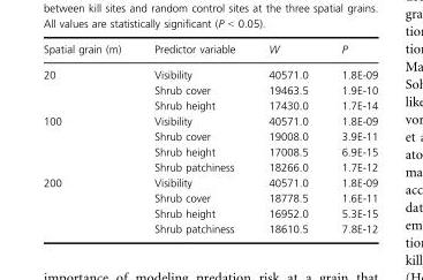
<table><thead><tr><td>Spatial grain (m)</td><td>Predictor variable</td><td>W</td><td>P</td></tr></thead><tbody><tr><td rowspan="3">20</td><td>Visibility</td><td>40571.0</td><td>1.8E-09</td></tr><tr><td>Shrub cover</td><td>19463.5</td><td>1.9E-10</td></tr><tr><td>Shrub height</td><td>17430.0</td><td>1.7E-14</td></tr><tr><td rowspan="4">100</td><td>Visibility</td><td>40571.0</td><td>1.8E-09</td></tr><tr><td>Shrub cover</td><td>19008.0</td><td>3.9E-11</td></tr><tr><td>Shrub height</td><td>17008.5</td><td>6.9E-15</td></tr><tr><td>Shrub patchiness</td><td>18266.0</td><td>1.7E-12</td></tr><tr><td rowspan="4">200</td><td>Visibility</td><td>40571.0</td><td>1.8E-09</td></tr><tr><td>Shrub cover</td><td>18778.5</td><td>1.6E-11</td></tr><tr><td>Shrub height</td><td>16952.0</td><td>5.3E-15</td></tr><tr><td>Shrub patchiness</td><td>18610.5</td><td>7.8E-12</td></tr></tbody></table>